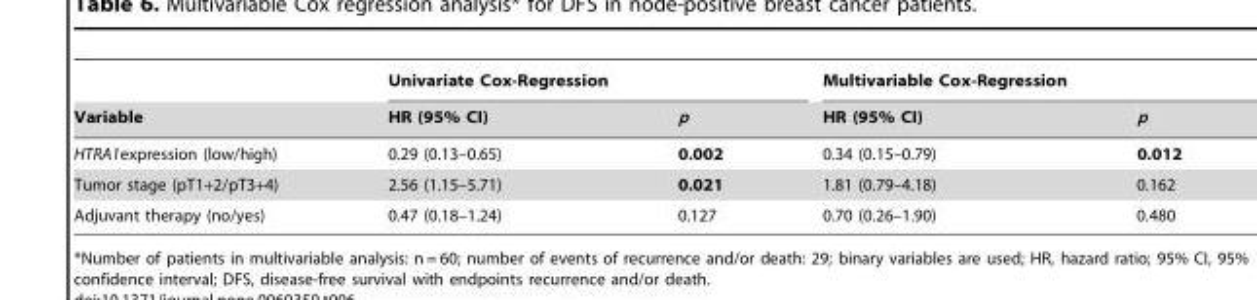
<table><thead><tr><td rowspan="2">Variable</td><td colspan="2">Univariate Cox-Regression</td><td colspan="2">Multivariable Cox-Regression</td></tr><tr><td>HR (95% CI)</td><td>p</td><td>HR (95% CI)</td><td>p</td></tr></thead><tbody><tr><td>HTRA1expression (low/high)</td><td>0.29 (0.13–0.65)</td><td>0.002</td><td>0.34 (0.15–0.79)</td><td>0.012</td></tr><tr><td>Tumor stage (pT1+2/pT3+4)</td><td>2.56 (1.15–5.71)</td><td>0.021</td><td>1.81 (0.79–4.18)</td><td>0.162</td></tr><tr><td>Adjuvant therapy (no/yes)</td><td>0.47 (0.18–1.24)</td><td>0.127</td><td>0.70 (0.26–1.90)</td><td>0.480</td></tr></tbody></table>